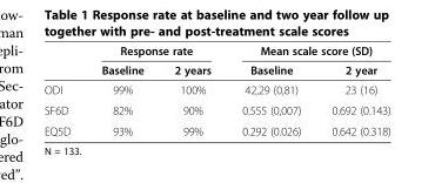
<table><thead><tr><td rowspan="2"></td><td colspan="2">Response rate</td><td colspan="2">Mean scale score (SD)</td></tr><tr><td>Baseline</td><td>2 years</td><td>Baseline</td><td>2 year</td></tr></thead><tbody><tr><td>ODI</td><td>99%</td><td>100%</td><td>42,29 (0,81)</td><td>23 (16)</td></tr><tr><td>SF6D</td><td>82%</td><td>90%</td><td>0.555 (0,007)</td><td>0.692 (0.143)</td></tr><tr><td>EQ5D</td><td>93%</td><td>99%</td><td>0.292 (0.026)</td><td>0.642 (0.318)</td></tr></tbody></table>